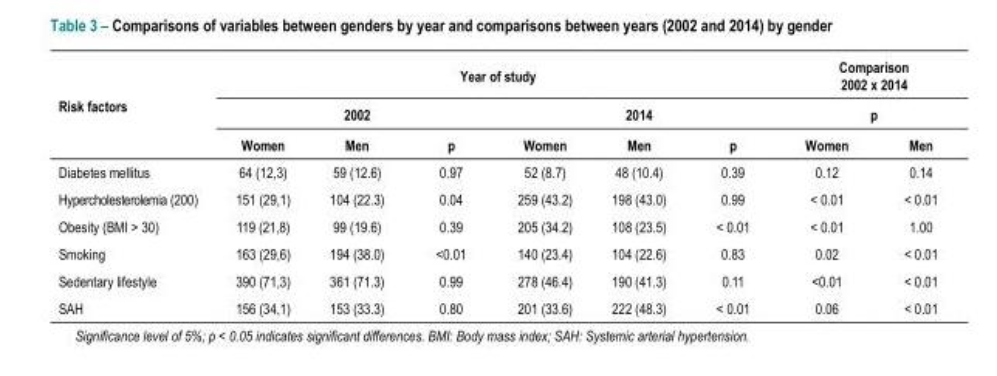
<table><thead><tr><td rowspan="3">Risk factors</td><td colspan="6">Year of study</td><td rowspan="2" colspan="2">Comparison 2002 x 2014 p</td></tr><tr><td colspan="3">2002</td><td colspan="3">2014</td></tr><tr><td>Women</td><td>Men</td><td>p</td><td>Women</td><td>Men</td><td>p</td><td>Women</td><td>Men</td></tr></thead><tbody><tr><td>Diabetes mellitus</td><td>64 (12,3)</td><td>59 (12.6)</td><td>0.97</td><td>52 (8.7)</td><td>48 (10.4)</td><td>0.39</td><td>0.12</td><td>0.14</td></tr><tr><td>Hypercholesterolemia (200)</td><td>151 (29,1)</td><td>104 (22.3)</td><td>0.04</td><td>259 (43.2)</td><td>198 (43.0)</td><td>0.99</td><td>&lt; 0.01</td><td>&lt; 0.01</td></tr><tr><td>Obesity (BMI &gt; 30)</td><td>119 (21,8)</td><td>99 (19.6)</td><td>0.39</td><td>205 (34.2)</td><td>108 (23.5)</td><td>&lt; 0.01</td><td>&lt; 0.01</td><td>1.00</td></tr><tr><td>Smoking</td><td>163 (29,6)</td><td>194 (38.0)</td><td>&lt;0.01</td><td>140 (23.4)</td><td>104 (22.6)</td><td>0.83</td><td>0.02</td><td>&lt; 0.01</td></tr><tr><td>Sedentary lifestyle</td><td>390 (71,3)</td><td>361 (71.3)</td><td>0.99</td><td>278 (46.4)</td><td>190 (41.3)</td><td>0.11</td><td>&lt;0.01</td><td>&lt; 0.01</td></tr><tr><td>SAH</td><td>156 (34,1)</td><td>153 (33.3)</td><td>0.80</td><td>201 (33.6)</td><td>222 (48.3)</td><td>&lt; 0.01</td><td>0.06</td><td>&lt; 0.01</td></tr></tbody></table>